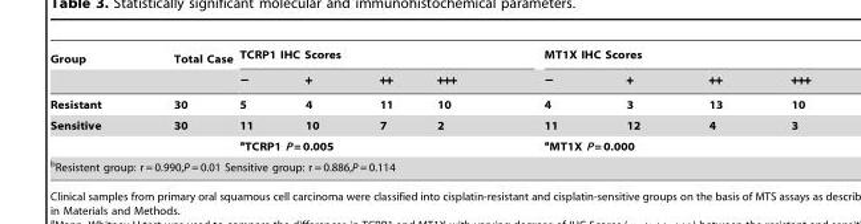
<table><thead><tr><td rowspan="2">Group</td><td rowspan="2">Total Case</td><td colspan="4">TCRP1 IHC Scores</td><td colspan="4">MT1X IHC Scores</td></tr><tr><td>−</td><td>+</td><td>++</td><td>+++</td><td>−</td><td>+</td><td>++</td><td>+++</td></tr></thead><tbody><tr><td>Resistant</td><td>30</td><td>5</td><td>4</td><td>11</td><td>10</td><td>4</td><td>3</td><td>13</td><td>10</td></tr><tr><td rowspan="2">Sensitive</td><td>30</td><td>11</td><td>10</td><td>7</td><td>2</td><td>11</td><td>12</td><td>4</td><td>3</td></tr><tr><td></td><td colspan="4">aTCRP1 P = 0.005</td><td colspan="4">aMT1X P = 0.000</td></tr><tr><td colspan="10">bResistent group: r = 0.990,P = 0.01 Sensitive group: r = 0.886,P = 0.114</td></tr></tbody></table>